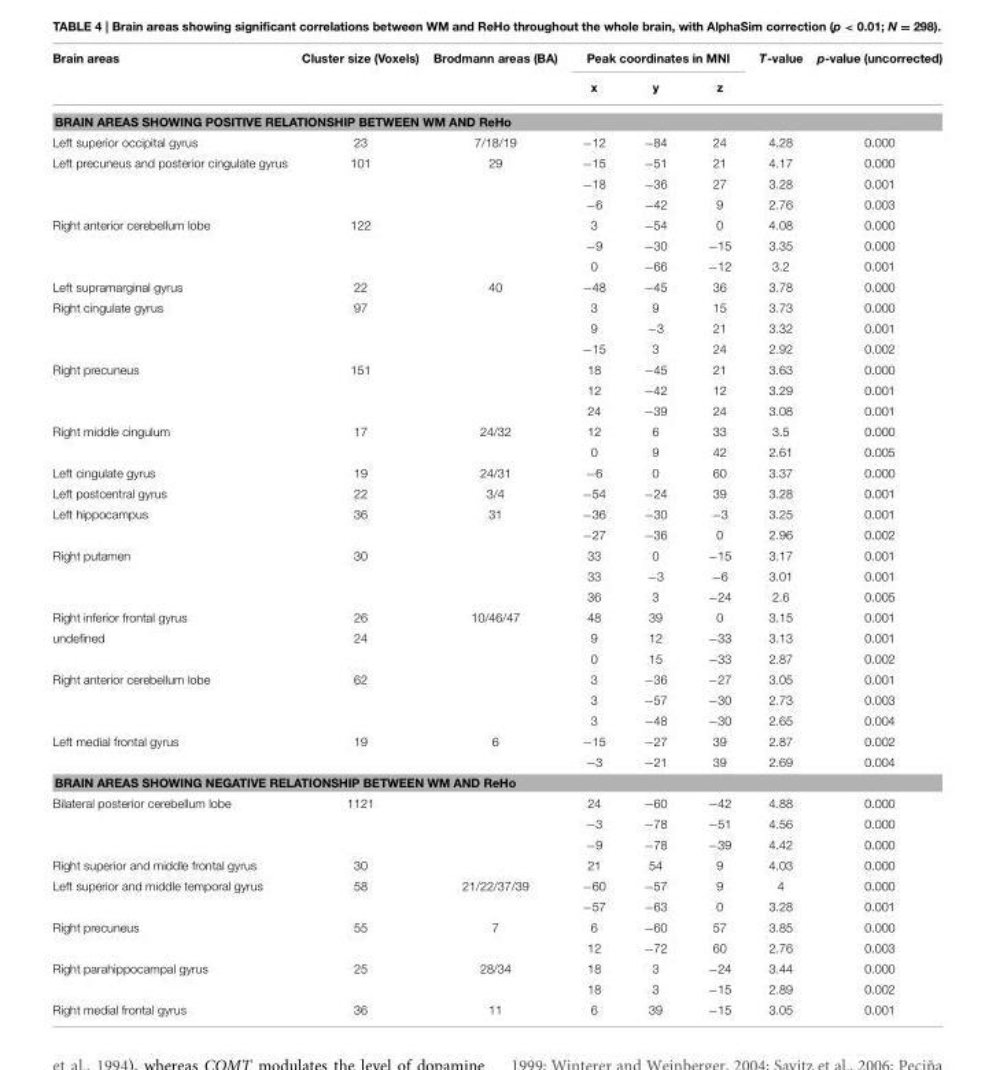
<table><thead><tr><td rowspan="2">Brain areas</td><td rowspan="2">Cluster size (Voxels)</td><td rowspan="2">Brodmann areas (BA)</td><td colspan="3">Peak coordinates in MNI</td><td rowspan="2">T-value</td><td rowspan="2">p-value (uncorrected)</td></tr><tr><td>x</td><td>y</td><td>z</td></tr></thead><tbody><tr><td colspan="8">BRAIN AREAS SHOWING POSITIVE RELATIONSHIP BETWEEN WM AND ReHo</td></tr><tr><td>Left superior occipital gyrus</td><td>23</td><td>7/18/19</td><td>−12</td><td>−84</td><td>24</td><td>4.28</td><td>0.000</td></tr><tr><td rowspan="3">Left precuneus and posterior cingulate gyrus</td><td>101</td><td>29</td><td>−15</td><td>−51</td><td>21</td><td>4.17</td><td>0.000</td></tr><tr><td></td><td></td><td>−18</td><td>−36</td><td>27</td><td>3.28</td><td>0.001</td></tr><tr><td></td><td></td><td>−6</td><td>−42</td><td>9</td><td>2.76</td><td>0.003</td></tr><tr><td rowspan="3">Right anterior cerebellum lobe</td><td>122</td><td></td><td>3</td><td>−54</td><td>0</td><td>4.08</td><td>0.000</td></tr><tr><td></td><td></td><td>−9</td><td>−30</td><td>−15</td><td>3.35</td><td>0.000</td></tr><tr><td></td><td></td><td>0</td><td>−66</td><td>−12</td><td>3.2</td><td>0.001</td></tr><tr><td>Left supramarginal gyrus</td><td>22</td><td>40</td><td>−48</td><td>−45</td><td>36</td><td>3.78</td><td>0.000</td></tr><tr><td rowspan="3">Right cingulate gyrus</td><td>97</td><td></td><td>3</td><td>9</td><td>15</td><td>3.73</td><td>0.000</td></tr><tr><td></td><td></td><td>9</td><td>−3</td><td>21</td><td>3.32</td><td>0.001</td></tr><tr><td></td><td></td><td>−15</td><td>3</td><td>24</td><td>2.92</td><td>0.002</td></tr><tr><td rowspan="3">Right precuneus</td><td>151</td><td></td><td>18</td><td>−45</td><td>21</td><td>3.63</td><td>0.000</td></tr><tr><td></td><td></td><td>12</td><td>−42</td><td>12</td><td>3.29</td><td>0.001</td></tr><tr><td></td><td></td><td>24</td><td>−39</td><td>24</td><td>3.08</td><td>0.001</td></tr><tr><td rowspan="2">Right middle cingulum</td><td>17</td><td>24/32</td><td>12</td><td>6</td><td>33</td><td>3.5</td><td>0.000</td></tr><tr><td></td><td></td><td>0</td><td>9</td><td>42</td><td>2.61</td><td>0.005</td></tr><tr><td>Left cingulate gyrus</td><td>19</td><td>24/31</td><td>−6</td><td>0</td><td>60</td><td>3.37</td><td>0.000</td></tr><tr><td>Left postcentral gyrus</td><td>22</td><td>3/4</td><td>−54</td><td>−24</td><td>39</td><td>3.28</td><td>0.001</td></tr><tr><td rowspan="2">Left hippocampus</td><td>36</td><td>31</td><td>−36</td><td>−30</td><td>−3</td><td>3.25</td><td>0.001</td></tr><tr><td></td><td></td><td>−27</td><td>−36</td><td>0</td><td>2.96</td><td>0.002</td></tr><tr><td rowspan="3">Right putamen</td><td>30</td><td></td><td>33</td><td>0</td><td>−15</td><td>3.17</td><td>0.001</td></tr><tr><td></td><td></td><td>33</td><td>−3</td><td>−6</td><td>3.01</td><td>0.001</td></tr><tr><td></td><td></td><td>36</td><td>3</td><td>−24</td><td>2.6</td><td>0.005</td></tr><tr><td>Right inferior frontal gyrus</td><td>26</td><td>10/46/47</td><td>48</td><td>39</td><td>0</td><td>3.15</td><td>0.001</td></tr><tr><td rowspan="2">undefined</td><td>24</td><td></td><td>9</td><td>12</td><td>−33</td><td>3.13</td><td>0.001</td></tr><tr><td></td><td></td><td>0</td><td>15</td><td>−33</td><td>2.87</td><td>0.002</td></tr><tr><td rowspan="3">Right anterior cerebellum lobe</td><td>62</td><td></td><td>3</td><td>−36</td><td>−27</td><td>3.05</td><td>0.001</td></tr><tr><td></td><td></td><td>3</td><td>−57</td><td>−30</td><td>2.73</td><td>0.003</td></tr><tr><td></td><td></td><td>3</td><td>−48</td><td>−30</td><td>2.65</td><td>0.004</td></tr><tr><td rowspan="2">Left medial frontal gyrus</td><td>19</td><td>6</td><td>−15</td><td>−27</td><td>39</td><td>2.87</td><td>0.002</td></tr><tr><td></td><td></td><td>−3</td><td>−21</td><td>39</td><td>2.69</td><td>0.004</td></tr><tr><td colspan="8">BRAIN AREAS SHOWING NEGATIVE RELATIONSHIP BETWEEN WM AND ReHo</td></tr><tr><td rowspan="3">Bilateral posterior cerebellum lobe</td><td>1121</td><td></td><td>24</td><td>−60</td><td>−42</td><td>4.88</td><td>0.000</td></tr><tr><td></td><td></td><td>−3</td><td>−78</td><td>−51</td><td>4.56</td><td>0.000</td></tr><tr><td></td><td></td><td>−9</td><td>−78</td><td>−39</td><td>4.42</td><td>0.000</td></tr><tr><td>Right superior and middle frontal gyrus</td><td>30</td><td></td><td>21</td><td>54</td><td>9</td><td>4.03</td><td>0.000</td></tr><tr><td rowspan="2">Left superior and middle temporal gyrus</td><td>58</td><td>21/22/37/39</td><td>−60</td><td>−57</td><td>9</td><td>4</td><td>0.000</td></tr><tr><td></td><td></td><td>−57</td><td>−63</td><td>0</td><td>3.28</td><td>0.001</td></tr><tr><td rowspan="2">Right precuneus</td><td>55</td><td>7</td><td>6</td><td>−60</td><td>57</td><td>3.85</td><td>0.000</td></tr><tr><td></td><td></td><td>12</td><td>−72</td><td>60</td><td>2.76</td><td>0.003</td></tr><tr><td rowspan="2">Right parahippocampal gyrus</td><td>25</td><td>28/34</td><td>18</td><td>3</td><td>−24</td><td>3.44</td><td>0.000</td></tr><tr><td></td><td></td><td>18</td><td>3</td><td>−15</td><td>2.89</td><td>0.002</td></tr><tr><td>Right medial frontal gyrus</td><td>36</td><td>11</td><td>6</td><td>39</td><td>−15</td><td>3.05</td><td>0.001</td></tr></tbody></table>